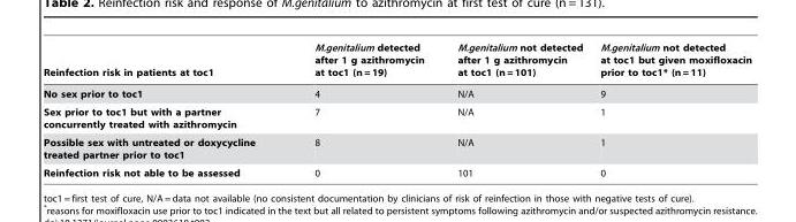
<table><thead><tr><td>Reinfection risk in patients at toc1</td><td>M.genitalium detected after 1 g azithromycin at toc1 (n = 19)</td><td>M.genitalium not detected after 1 g azithromycin at toc1 (n = 101)</td><td>M.genitalium not detected at toc1 but given moxifloxacin prior to toc1* (n = 11)</td></tr></thead><tbody><tr><td>No sex prior to toc1</td><td>4</td><td>N/A</td><td>9</td></tr><tr><td>Sex prior to toc1 but with a partner concurrently treated with azithromycin</td><td>7</td><td>N/A</td><td>1</td></tr><tr><td>Possible sex with untreated or doxycycline treated partner prior to toc1</td><td>8</td><td>N/A</td><td>1</td></tr><tr><td>Reinfection risk not able to be assessed</td><td>0</td><td>101</td><td>0</td></tr></tbody></table>